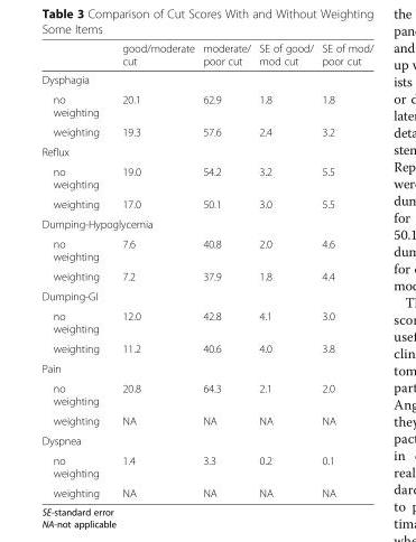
<table><thead><tr><td></td><td>good/moderate cut</td><td>moderate/ poor cut</td><td>SE of good/ mod cut</td><td>SE of mod/ poor cut</td></tr></thead><tbody><tr><td colspan="5">Dysphagia</td></tr><tr><td>no weighting</td><td>20.1</td><td>62.9</td><td>1.8</td><td>1.8</td></tr><tr><td>weighting</td><td>19.3</td><td>57.6</td><td>2.4</td><td>3.2</td></tr><tr><td colspan="5">Reflux</td></tr><tr><td>no weighting</td><td>19.0</td><td>54.2</td><td>3.2</td><td>5.5</td></tr><tr><td>weighting</td><td>17.0</td><td>50.1</td><td>3.0</td><td>5.5</td></tr><tr><td colspan="5">Dumping-Hypoglycemia</td></tr><tr><td>no weighting</td><td>7.6</td><td>40.8</td><td>2.0</td><td>4.6</td></tr><tr><td>weighting</td><td>7.2</td><td>37.9</td><td>1.8</td><td>4.4</td></tr><tr><td colspan="5">Dumping-GI</td></tr><tr><td>no weighting</td><td>12.0</td><td>42.8</td><td>4.1</td><td>3.0</td></tr><tr><td>weighting</td><td>11.2</td><td>40.6</td><td>4.0</td><td>3.8</td></tr><tr><td colspan="5">Pain</td></tr><tr><td>no weighting</td><td>20.8</td><td>64.3</td><td>2.1</td><td>2.0</td></tr><tr><td>weighting</td><td>NA</td><td>NA</td><td>NA</td><td>NA</td></tr><tr><td colspan="5">Dyspnea</td></tr><tr><td>no weighting</td><td>1.4</td><td>3.3</td><td>0.2</td><td>0.1</td></tr><tr><td>weighting</td><td>NA</td><td>NA</td><td>NA</td><td>NA</td></tr></tbody></table>